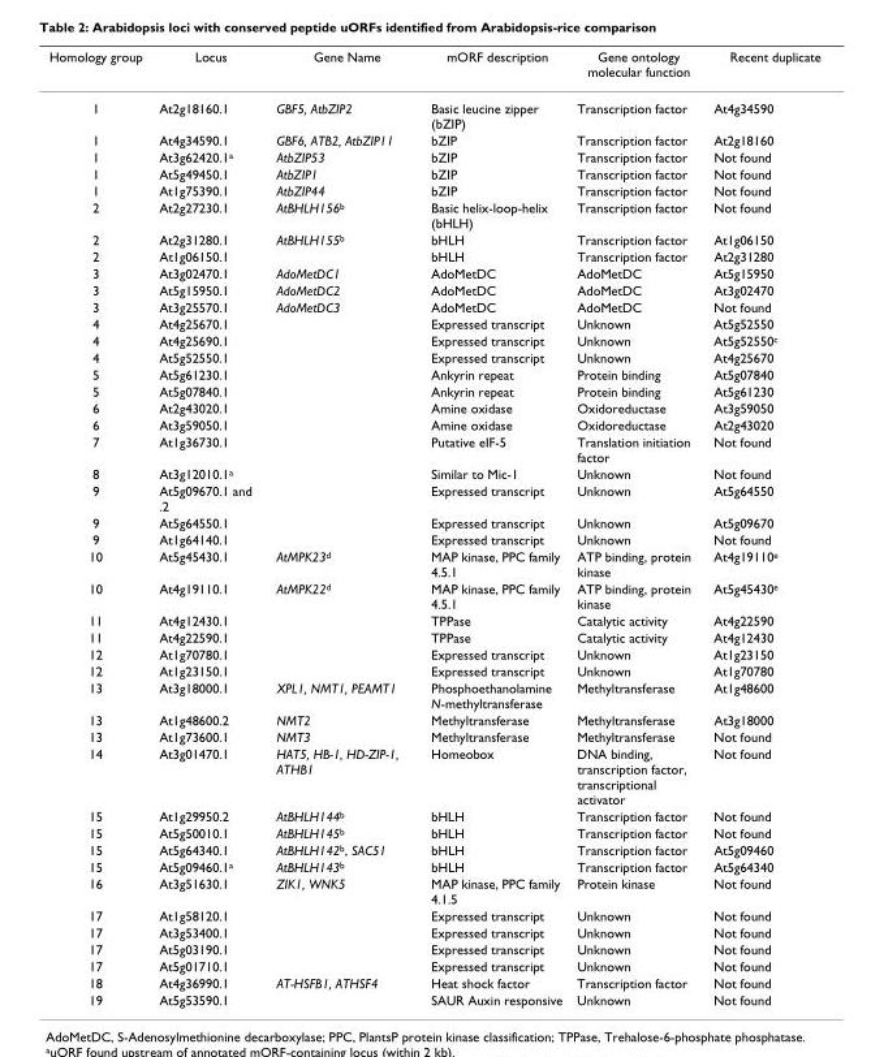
<table><thead><tr><td>Homology group</td><td>Locus</td><td>Gene Name</td><td>mORF description</td><td>Gene ontology molecular function</td><td>Recent duplicate</td></tr></thead><tbody><tr><td>1</td><td>At2g18160.1</td><td>GBF5, AtbZIP2</td><td>Basic leucine zipper (bZIP)</td><td>Transcription factor</td><td>At4g34590</td></tr><tr><td>1</td><td>At4g34590.1</td><td>GBF6, ATB2, AtbZIP11</td><td>bZIP</td><td>Transcription factor</td><td>At2g18160</td></tr><tr><td>1</td><td>At3g62420.1<sup>a</sup></td><td>AtbZIP53</td><td>bZIP</td><td>Transcription factor</td><td>Not found</td></tr><tr><td>1</td><td>At5g49450.1</td><td>AtbZIP1</td><td>bZIP</td><td>Transcription factor</td><td>Not found</td></tr><tr><td>1</td><td>At1g75390.1</td><td>AtbZIP44</td><td>bZIP</td><td>Transcription factor</td><td>Not found</td></tr><tr><td>2</td><td>At2g27230.1</td><td>AtBHLH156<sup>b</sup></td><td>Basic helix-loop-helix (bHLH)</td><td>Transcription factor</td><td>Not found</td></tr><tr><td>2</td><td>At2g31280.1</td><td>AtBHLH155<sup>b</sup></td><td>bHLH</td><td>Transcription factor</td><td>At1g06150</td></tr><tr><td>2</td><td>At1g06150.1</td><td></td><td>bHLH</td><td>Transcription factor</td><td>At2g31280</td></tr><tr><td>3</td><td>At3g02470.1</td><td>AdoMetDC1</td><td>AdoMetDC</td><td>AdoMetDC</td><td>At5g15950</td></tr><tr><td>3</td><td>At5g15950.1</td><td>AdoMetDC2</td><td>AdoMetDC</td><td>AdoMetDC</td><td>At3g02470</td></tr><tr><td>3</td><td>At3g25570.1</td><td>AdoMetDC3</td><td>AdoMetDC</td><td>AdoMetDC</td><td>Not found</td></tr><tr><td>4</td><td>At4g25670.1</td><td></td><td>Expressed transcript</td><td>Unknown</td><td>At5g52550</td></tr><tr><td>4</td><td>At4g25690.1</td><td></td><td>Expressed transcript</td><td>Unknown</td><td>At5g52550<sup>c</sup></td></tr><tr><td>4</td><td>At5g52550.1</td><td></td><td>Expressed transcript</td><td>Unknown</td><td>At4g25670</td></tr><tr><td>5</td><td>At5g61230.1</td><td></td><td>Ankyrin repeat</td><td>Protein binding</td><td>At5g07840</td></tr><tr><td>5</td><td>At5g07840.1</td><td></td><td>Ankyrin repeat</td><td>Protein binding</td><td>At5g61230</td></tr><tr><td>6</td><td>At2g43020.1</td><td></td><td>Amine oxidase</td><td>Oxidoreductase</td><td>At3g59050</td></tr><tr><td>6</td><td>At3g59050.1</td><td></td><td>Amine oxidase</td><td>Oxidoreductase</td><td>At2g43020</td></tr><tr><td>7</td><td>At1g36730.1</td><td></td><td>Putative eIF-5</td><td>Translation initiation factor</td><td>Not found</td></tr><tr><td>8</td><td>At3g12010.1<sup>a</sup></td><td></td><td>Similar to Mic-1</td><td>Unknown</td><td>Not found</td></tr><tr><td>9</td><td>At5g09670.1 and .2</td><td></td><td>Expressed transcript</td><td>Unknown</td><td>At5g64550</td></tr><tr><td>9</td><td>At5g64550.1</td><td></td><td>Expressed transcript</td><td>Unknown</td><td>At5g09670</td></tr><tr><td>9</td><td>At1g64140.1</td><td></td><td>Expressed transcript</td><td>Unknown</td><td>Not found</td></tr><tr><td>10</td><td>At5g45430.1</td><td>AtMPK23<sup>d</sup></td><td>MAP kinase, PPC family 4.5.1</td><td>ATP binding, protein kinase</td><td>At4g19110<sup>e</sup></td></tr><tr><td>10</td><td>At4g19110.1</td><td>AtMPK22<sup>d</sup></td><td>MAP kinase, PPC family 4.5.1</td><td>ATP binding, protein kinase</td><td>At5g45430<sup>e</sup></td></tr><tr><td>11</td><td>At4g12430.1</td><td></td><td>TPPase</td><td>Catalytic activity</td><td>At4g22590</td></tr><tr><td>11</td><td>At4g22590.1</td><td></td><td>TPPase</td><td>Catalytic activity</td><td>At4g12430</td></tr><tr><td>12</td><td>At1g70780.1</td><td></td><td>Expressed transcript</td><td>Unknown</td><td>At1g23150</td></tr><tr><td>12</td><td>At1g23150.1</td><td></td><td>Expressed transcript</td><td>Unknown</td><td>At1g70780</td></tr><tr><td>13</td><td>At3g18000.1</td><td>XPL1, NMT1, PEAMT1</td><td>Phosphoethanolamine N-methyltransferase</td><td>Methyltransferase</td><td>At1g48600</td></tr><tr><td>13</td><td>At1g48600.2</td><td>NMT2</td><td>Methyltransferase</td><td>Methyltransferase</td><td>At3g18000</td></tr><tr><td>13</td><td>At1g73600.1</td><td>NMT3</td><td>Methyltransferase</td><td>Methyltransferase</td><td>Not found</td></tr><tr><td>14</td><td>At3g01470.1</td><td>HAT5, HB-1, HD-ZIP-1, ATHB1</td><td>Homeobox</td><td>DNA binding, transcription factor, transcriptional activator</td><td>Not found</td></tr><tr><td>15</td><td>At1g29950.2</td><td>AtBHLH144<sup>b</sup></td><td>bHLH</td><td>Transcription factor</td><td>Not found</td></tr><tr><td>15</td><td>At5g50010.1</td><td>AtBHLH145<sup>b</sup></td><td>bHLH</td><td>Transcription factor</td><td>Not found</td></tr><tr><td>15</td><td>At5g64340.1</td><td>AtBHLH142<sup>b</sup>, SAC51</td><td>bHLH</td><td>Transcription factor</td><td>At5g09460</td></tr><tr><td>15</td><td>At5g09460.1<sup>a</sup></td><td>AtBHLH143<sup>b</sup></td><td>bHLH</td><td>Transcription factor</td><td>At5g64340</td></tr><tr><td>16</td><td>At3g51630.1</td><td>ZIK1, WNK5</td><td>MAP kinase, PPC family 4.1.5</td><td>Protein kinase</td><td>Not found</td></tr><tr><td>17</td><td>At1g58120.1</td><td></td><td>Expressed transcript</td><td>Unknown</td><td>Not found</td></tr><tr><td>17</td><td>At3g53400.1</td><td></td><td>Expressed transcript</td><td>Unknown</td><td>Not found</td></tr><tr><td>17</td><td>At5g03190.1</td><td></td><td>Expressed transcript</td><td>Unknown</td><td>Not found</td></tr><tr><td>17</td><td>At5g01710.1</td><td></td><td>Expressed transcript</td><td>Unknown</td><td>Not found</td></tr><tr><td>18</td><td>At4g36990.1</td><td>AT-HSFB1, ATHSF4</td><td>Heat shock factor</td><td>Transcription factor</td><td>Not found</td></tr><tr><td>19</td><td>At5g53590.1</td><td></td><td>SAUR Auxin responsive</td><td>Unknown</td><td>Not found</td></tr></tbody></table>